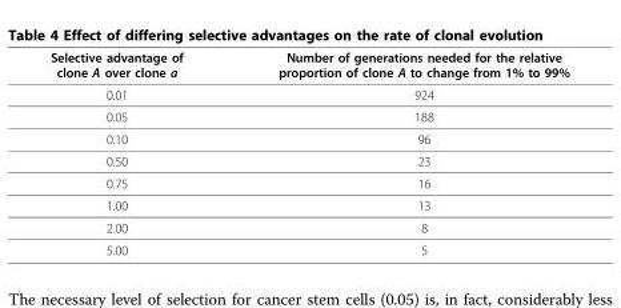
<table><thead><tr><td>Selective advantage of clone A over clone a</td><td>Number of generations needed for the relative proportion of clone A to change from 1% to 99%</td></tr></thead><tbody><tr><td>0.01</td><td>924</td></tr><tr><td>0.05</td><td>188</td></tr><tr><td>0.10</td><td>96</td></tr><tr><td>0.50</td><td>23</td></tr><tr><td>0.75</td><td>16</td></tr><tr><td>1.00</td><td>13</td></tr><tr><td>2.00</td><td>8</td></tr><tr><td>5.00</td><td>5</td></tr></tbody></table>